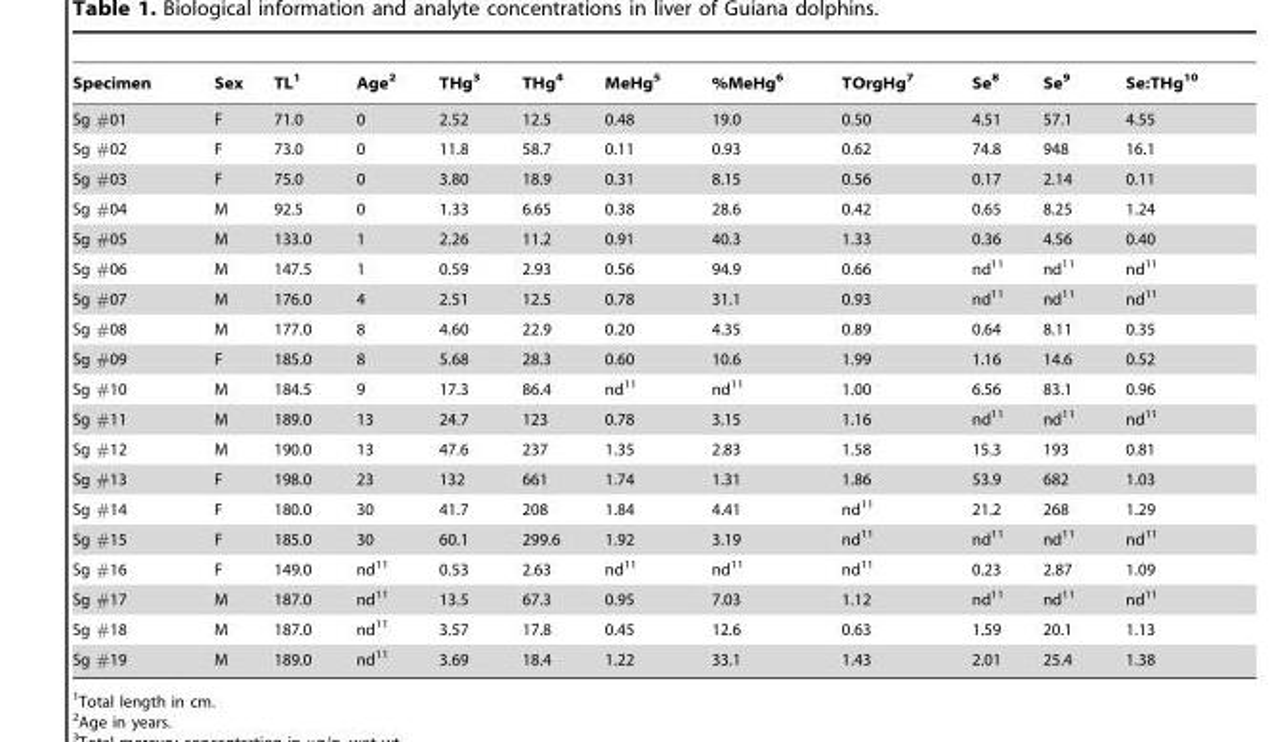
<table><thead><tr><td>Specimen</td><td>Sex</td><td>TL<sup>1</sup></td><td>Age<sup>2</sup></td><td>THg<sup>3</sup></td><td>THg<sup>4</sup></td><td>MeHg<sup>5</sup></td><td>%MeHg<sup>6</sup></td><td>TOrgHg<sup>7</sup></td><td>Se<sup>8</sup></td><td>Se<sup>9</sup></td><td>Se:THg<sup>10</sup></td></tr></thead><tbody><tr><td>Sg #01</td><td>F</td><td>71.0</td><td>0</td><td>2.52</td><td>12.5</td><td>0.48</td><td>19.0</td><td>0.50</td><td>4.51</td><td>57.1</td><td>4.55</td></tr><tr><td>Sg #02</td><td>F</td><td>73.0</td><td>0</td><td>11.8</td><td>58.7</td><td>0.11</td><td>0.93</td><td>0.62</td><td>74.8</td><td>948</td><td>16.1</td></tr><tr><td>Sg #03</td><td>F</td><td>75.0</td><td>0</td><td>3.80</td><td>18.9</td><td>0.31</td><td>8.15</td><td>0.56</td><td>0.17</td><td>2.14</td><td>0.11</td></tr><tr><td>Sg #04</td><td>M</td><td>92.5</td><td>0</td><td>1.33</td><td>6.65</td><td>0.38</td><td>28.6</td><td>0.42</td><td>0.65</td><td>8.25</td><td>1.24</td></tr><tr><td>Sg #05</td><td>M</td><td>133.0</td><td>1</td><td>2.26</td><td>11.2</td><td>0.91</td><td>40.3</td><td>1.33</td><td>0.36</td><td>4.56</td><td>0.40</td></tr><tr><td>Sg #06</td><td>M</td><td>147.5</td><td>1</td><td>0.59</td><td>2.93</td><td>0.56</td><td>94.9</td><td>0.66</td><td>nd<sup>11</sup></td><td>nd<sup>11</sup></td><td>nd<sup>11</sup></td></tr><tr><td>Sg #07</td><td>M</td><td>176.0</td><td>4</td><td>2.51</td><td>12.5</td><td>0.78</td><td>31.1</td><td>0.93</td><td>nd<sup>11</sup></td><td>nd<sup>11</sup></td><td>nd<sup>11</sup></td></tr><tr><td>Sg #08</td><td>M</td><td>177.0</td><td>8</td><td>4.60</td><td>22.9</td><td>0.20</td><td>4.35</td><td>0.89</td><td>0.64</td><td>8.11</td><td>0.35</td></tr><tr><td>Sg #09</td><td>F</td><td>185.0</td><td>8</td><td>5.68</td><td>28.3</td><td>0.60</td><td>10.6</td><td>1.99</td><td>1.16</td><td>14.6</td><td>0.52</td></tr><tr><td>Sg #10</td><td>M</td><td>184.5</td><td>9</td><td>17.3</td><td>86.4</td><td>nd<sup>11</sup></td><td>nd<sup>11</sup></td><td>1.00</td><td>6.56</td><td>83.1</td><td>0.96</td></tr><tr><td>Sg #11</td><td>M</td><td>189.0</td><td>13</td><td>24.7</td><td>123</td><td>0.78</td><td>3.15</td><td>1.16</td><td>nd<sup>11</sup></td><td>nd<sup>11</sup></td><td>nd<sup>11</sup></td></tr><tr><td>Sg #12</td><td>M</td><td>190.0</td><td>13</td><td>47.6</td><td>237</td><td>1.35</td><td>2.83</td><td>1.58</td><td>15.3</td><td>193</td><td>0.81</td></tr><tr><td>Sg #13</td><td>F</td><td>198.0</td><td>23</td><td>132</td><td>661</td><td>1.74</td><td>1.31</td><td>1.86</td><td>53.9</td><td>682</td><td>1.03</td></tr><tr><td>Sg #14</td><td>F</td><td>180.0</td><td>30</td><td>41.7</td><td>208</td><td>1.84</td><td>4.41</td><td>nd<sup>11</sup></td><td>21.2</td><td>268</td><td>1.29</td></tr><tr><td>Sg #15</td><td>F</td><td>185.0</td><td>30</td><td>60.1</td><td>299.6</td><td>1.92</td><td>3.19</td><td>nd<sup>11</sup></td><td>nd<sup>11</sup></td><td>nd<sup>11</sup></td><td>nd<sup>11</sup></td></tr><tr><td>Sg #16</td><td>F</td><td>149.0</td><td>nd<sup>11</sup></td><td>0.53</td><td>2.63</td><td>nd<sup>11</sup></td><td>nd<sup>11</sup></td><td>nd<sup>11</sup></td><td>0.23</td><td>2.87</td><td>1.09</td></tr><tr><td>Sg #17</td><td>M</td><td>187.0</td><td>nd<sup>11</sup></td><td>13.5</td><td>67.3</td><td>0.95</td><td>7.03</td><td>1.12</td><td>nd<sup>11</sup></td><td>nd<sup>11</sup></td><td>nd<sup>11</sup></td></tr><tr><td>Sg #18</td><td>M</td><td>187.0</td><td>nd<sup>11</sup></td><td>3.57</td><td>17.8</td><td>0.45</td><td>12.6</td><td>0.63</td><td>1.59</td><td>20.1</td><td>1.13</td></tr><tr><td>Sg #19</td><td>M</td><td>189.0</td><td>nd<sup>11</sup></td><td>3.69</td><td>18.4</td><td>1.22</td><td>33.1</td><td>1.43</td><td>2.01</td><td>25.4</td><td>1.38</td></tr></tbody></table>